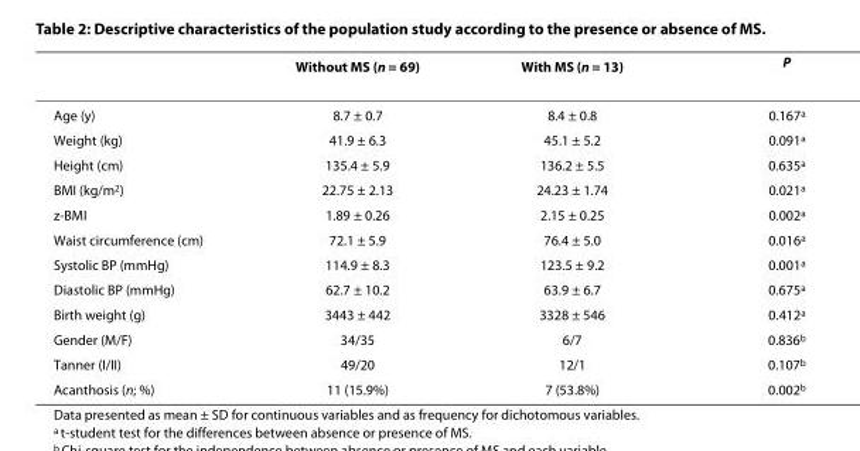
<table><thead><tr><td></td><td>Without MS (n = 69)</td><td>With MS (n = 13)</td><td>P</td></tr></thead><tbody><tr><td>Age (y)</td><td>8.7 ± 0.7</td><td>8.4 ± 0.8</td><td>0.167<sup>a</sup></td></tr><tr><td>Weight (kg)</td><td>41.9 ± 6.3</td><td>45.1 ± 5.2</td><td>0.091<sup>a</sup></td></tr><tr><td>Height (cm)</td><td>135.4 ± 5.9</td><td>136.2 ± 5.5</td><td>0.635<sup>a</sup></td></tr><tr><td>BMI (kg/m<sup>2</sup>)</td><td>22.75 ± 2.13</td><td>24.23 ± 1.74</td><td>0.021<sup>a</sup></td></tr><tr><td>z-BMI</td><td>1.89 ± 0.26</td><td>2.15 ± 0.25</td><td>0.002<sup>a</sup></td></tr><tr><td>Waist circumference (cm)</td><td>72.1 ± 5.9</td><td>76.4 ± 5.0</td><td>0.016<sup>a</sup></td></tr><tr><td>Systolic BP (mmHg)</td><td>114.9 ± 8.3</td><td>123.5 ± 9.2</td><td>0.001<sup>a</sup></td></tr><tr><td>Diastolic BP (mmHg)</td><td>62.7 ± 10.2</td><td>63.9 ± 6.7</td><td>0.675<sup>a</sup></td></tr><tr><td>Birth weight (g)</td><td>3443 ± 442</td><td>3328 ± 546</td><td>0.412<sup>a</sup></td></tr><tr><td>Gender (M/F)</td><td>34/35</td><td>6/7</td><td>0.836<sup>b</sup></td></tr><tr><td>Tanner (I/II)</td><td>49/20</td><td>12/1</td><td>0.107<sup>b</sup></td></tr><tr><td>Acanthosis (n; %)</td><td>11 (15.9%)</td><td>7 (53.8%)</td><td>0.002<sup>b</sup></td></tr></tbody></table>